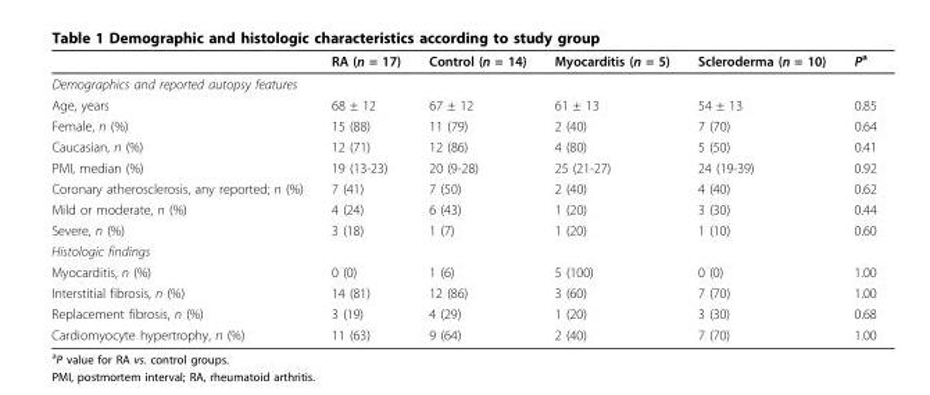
<table><thead><tr><td></td><td>RA (n = 17)</td><td>Control (n = 14)</td><td>Myocarditis (n = 5)</td><td>Scleroderma (n = 10)</td><td>P<sup>a</sup></td></tr></thead><tbody><tr><td colspan="6">Demographics and reported autopsy features</td></tr><tr><td>Age, years</td><td>68 ± 12</td><td>67 ± 12</td><td>61 ± 13</td><td>54 ± 13</td><td>0.85</td></tr><tr><td>Female, n (%)</td><td>15 (88)</td><td>11 (79)</td><td>2 (40)</td><td>7 (70)</td><td>0.64</td></tr><tr><td>Caucasian, n (%)</td><td>12 (71)</td><td>12 (86)</td><td>4 (80)</td><td>5 (50)</td><td>0.41</td></tr><tr><td>PMI, median (%)</td><td>19 (13-23)</td><td>20 (9-28)</td><td>25 (21-27)</td><td>24 (19-39)</td><td>0.92</td></tr><tr><td>Coronary atherosclerosis, any reported; n (%)</td><td>7 (41)</td><td>7 (50)</td><td>2 (40)</td><td>4 (40)</td><td>0.62</td></tr><tr><td>Mild or moderate, n (%)</td><td>4 (24)</td><td>6 (43)</td><td>1 (20)</td><td>3 (30)</td><td>0.44</td></tr><tr><td>Severe, n (%)</td><td>3 (18)</td><td>1 (7)</td><td>1 (20)</td><td>1 (10)</td><td>0.60</td></tr><tr><td colspan="6">Histologic findings</td></tr><tr><td>Myocarditis, n (%)</td><td>0 (0)</td><td>1 (6)</td><td>5 (100)</td><td>0 (0)</td><td>1.00</td></tr><tr><td>Interstitial fibrosis, n (%)</td><td>14 (81)</td><td>12 (86)</td><td>3 (60)</td><td>7 (70)</td><td>1.00</td></tr><tr><td>Replacement fibrosis, n (%)</td><td>3 (19)</td><td>4 (29)</td><td>1 (20)</td><td>3 (30)</td><td>0.68</td></tr><tr><td>Cardiomyocyte hypertrophy, n (%)</td><td>11 (63)</td><td>9 (64)</td><td>2 (40)</td><td>7 (70)</td><td>1.00</td></tr></tbody></table>